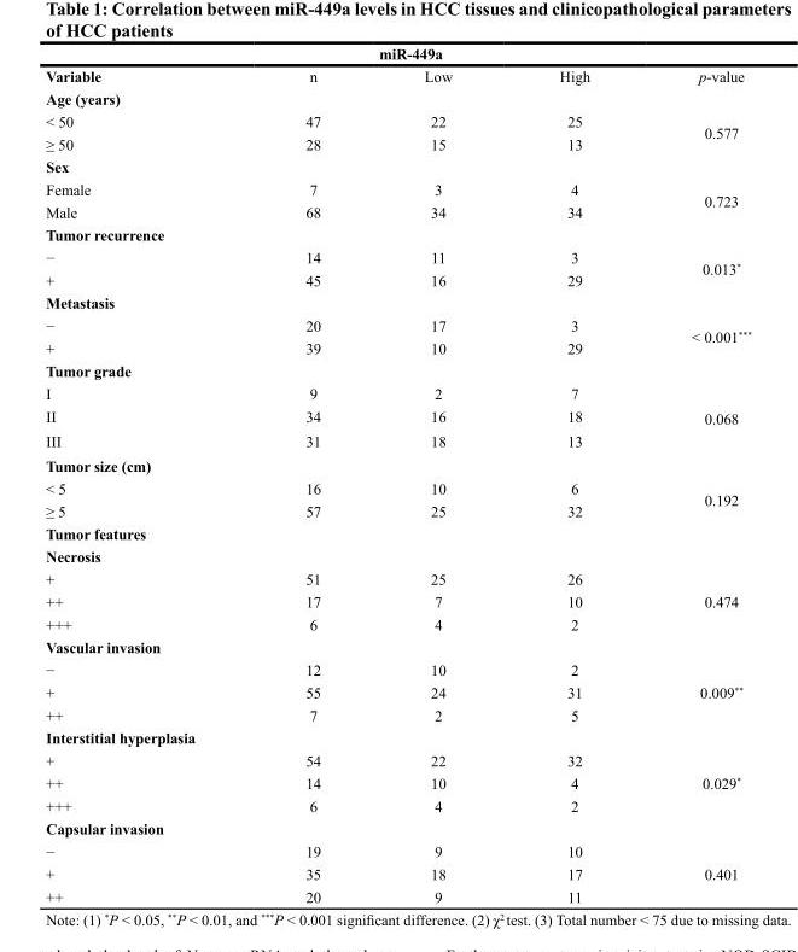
<table><thead><tr><td></td><td></td><td>miR-449a</td><td></td><td></td></tr></thead><tbody><tr><td>Variable</td><td>n</td><td>Low</td><td>High</td><td>p-value</td></tr><tr><td colspan="5">Age (years)</td></tr><tr><td>&lt; 50</td><td>47</td><td>22</td><td>25</td><td rowspan="2">0.577</td></tr><tr><td>≥ 50</td><td>28</td><td>15</td><td>13</td></tr><tr><td colspan="5">Sex</td></tr><tr><td>Female</td><td>7</td><td>3</td><td>4</td><td rowspan="2">0.723</td></tr><tr><td>Male</td><td>68</td><td>34</td><td>34</td></tr><tr><td colspan="5">Tumor recurrence</td></tr><tr><td>−</td><td>14</td><td>11</td><td>3</td><td rowspan="2">0.013*</td></tr><tr><td>+</td><td>45</td><td>16</td><td>29</td></tr><tr><td colspan="5">Metastasis</td></tr><tr><td>−</td><td>20</td><td>17</td><td>3</td><td rowspan="2">&lt; 0.001***</td></tr><tr><td>+</td><td>39</td><td>10</td><td>29</td></tr><tr><td colspan="5">Tumor grade</td></tr><tr><td>I</td><td>9</td><td>2</td><td>7</td><td rowspan="3">0.068</td></tr><tr><td>II</td><td>34</td><td>16</td><td>18</td></tr><tr><td>III</td><td>31</td><td>18</td><td>13</td></tr><tr><td colspan="5">Tumor size (cm)</td></tr><tr><td>&lt; 5</td><td>16</td><td>10</td><td>6</td><td rowspan="2">0.192</td></tr><tr><td>≥ 5</td><td>57</td><td>25</td><td>32</td></tr><tr><td colspan="5">Tumor features</td></tr><tr><td colspan="5">Necrosis</td></tr><tr><td>+</td><td>51</td><td>25</td><td>26</td><td rowspan="3">0.474</td></tr><tr><td>++</td><td>17</td><td>7</td><td>10</td></tr><tr><td>+++</td><td>6</td><td>4</td><td>2</td></tr><tr><td colspan="5">Vascular invasion</td></tr><tr><td>−</td><td>12</td><td>10</td><td>2</td><td rowspan="3">0.009**</td></tr><tr><td>+</td><td>55</td><td>24</td><td>31</td></tr><tr><td>++</td><td>7</td><td>2</td><td>5</td></tr><tr><td colspan="5">Interstitial hyperplasia</td></tr><tr><td>+</td><td>54</td><td>22</td><td>32</td><td rowspan="3">0.029*</td></tr><tr><td>++</td><td>14</td><td>10</td><td>4</td></tr><tr><td>+++</td><td>6</td><td>4</td><td>2</td></tr><tr><td colspan="5">Capsular invasion</td></tr><tr><td>−</td><td>19</td><td>9</td><td>10</td><td rowspan="3">0.401</td></tr><tr><td>+</td><td>35</td><td>18</td><td>17</td></tr><tr><td>++</td><td>20</td><td>9</td><td>11</td></tr></tbody></table>